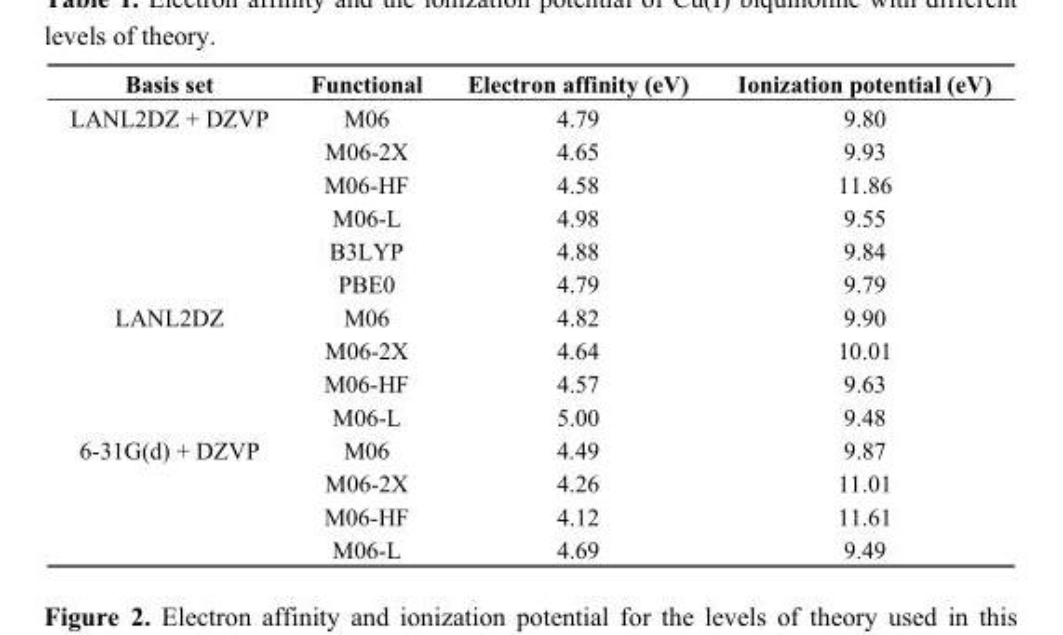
<table><thead><tr><td>Basis set</td><td>Functional</td><td>Electron affinity (eV)</td><td>Ionization potential (eV)</td></tr></thead><tbody><tr><td rowspan="6">LANL2DZ + DZVP</td><td>M06</td><td>4.79</td><td>9.80</td></tr><tr><td>M06-2X</td><td>4.65</td><td>9.93</td></tr><tr><td>M06-HF</td><td>4.58</td><td>11.86</td></tr><tr><td>M06-L</td><td>4.98</td><td>9.55</td></tr><tr><td>B3LYP</td><td>4.88</td><td>9.84</td></tr><tr><td>PBE0</td><td>4.79</td><td>9.79</td></tr><tr><td rowspan="4">LANL2DZ</td><td>M06</td><td>4.82</td><td>9.90</td></tr><tr><td>M06-2X</td><td>4.64</td><td>10.01</td></tr><tr><td>M06-HF</td><td>4.57</td><td>9.63</td></tr><tr><td>M06-L</td><td>5.00</td><td>9.48</td></tr><tr><td rowspan="4">6-31G(d) + DZVP</td><td>M06</td><td>4.49</td><td>9.87</td></tr><tr><td>M06-2X</td><td>4.26</td><td>11.01</td></tr><tr><td>M06-HF</td><td>4.12</td><td>11.61</td></tr><tr><td>M06-L</td><td>4.69</td><td>9.49</td></tr></tbody></table>